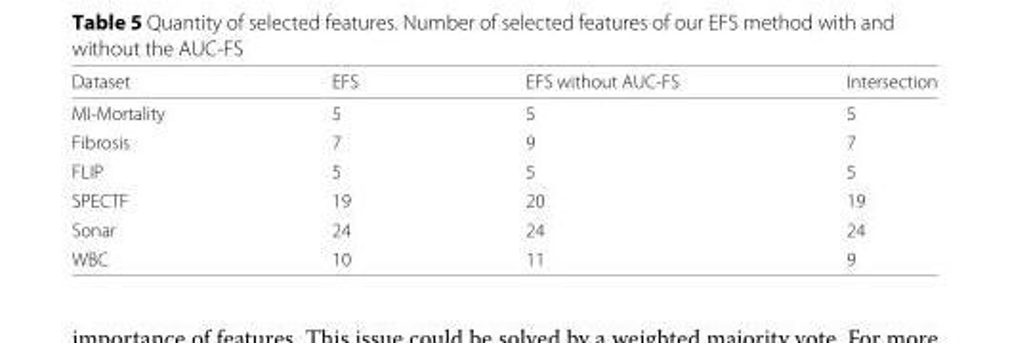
<table><thead><tr><td>Dataset</td><td>EFS</td><td>EFS without AUC-FS</td><td>Intersection</td></tr></thead><tbody><tr><td>MI-Mortality</td><td>5</td><td>5</td><td>5</td></tr><tr><td>Fibrosis</td><td>7</td><td>9</td><td>7</td></tr><tr><td>FLIP</td><td>5</td><td>5</td><td>5</td></tr><tr><td>SPECTF</td><td>19</td><td>20</td><td>19</td></tr><tr><td>Sonar</td><td>24</td><td>24</td><td>24</td></tr><tr><td>WBC</td><td>10</td><td>11</td><td>9</td></tr></tbody></table>